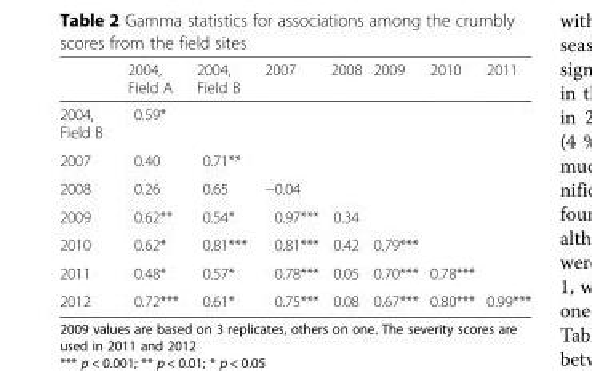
<table><thead><tr><td></td><td>2004, Field A</td><td>2004, Field B</td><td>2007</td><td>2008</td><td>2009</td><td>2010</td><td>2011</td></tr></thead><tbody><tr><td>2004, Field B</td><td>0.59*</td><td></td><td></td><td></td><td></td><td></td><td></td></tr><tr><td>2007</td><td>0.40</td><td>0.71**</td><td></td><td></td><td></td><td></td><td></td></tr><tr><td>2008</td><td>0.26</td><td>0.65</td><td>−0.04</td><td></td><td></td><td></td><td></td></tr><tr><td>2009</td><td>0.62**</td><td>0.54*</td><td>0.97***</td><td>0.34</td><td></td><td></td><td></td></tr><tr><td>2010</td><td>0.62*</td><td>0.81***</td><td>0.81***</td><td>0.42</td><td>0.79***</td><td></td><td></td></tr><tr><td>2011</td><td>0.48*</td><td>0.57*</td><td>0.78***</td><td>0.05</td><td>0.70***</td><td>0.78***</td><td></td></tr><tr><td>2012</td><td>0.72***</td><td>0.61*</td><td>0.75***</td><td>0.08</td><td>0.67***</td><td>0.80***</td><td>0.99***</td></tr></tbody></table>